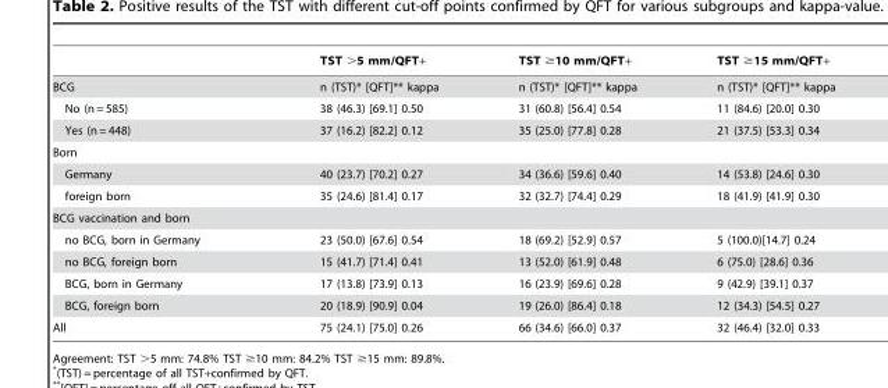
<table><thead><tr><td></td><td>TST &gt;5 mm/QFT+</td><td>TST ≥10 mm/QFT+</td><td>TST ≥15 mm/QFT+</td></tr></thead><tbody><tr><td>BCG</td><td>n (TST)* [QFT]** kappa</td><td>n (TST)* [QFT]** kappa</td><td>n (TST)* [QFT]** kappa</td></tr><tr><td>No (n = 585)</td><td>38 (46.3) [69.1] 0.50</td><td>31 (60.8) [56.4] 0.54</td><td>11 (84.6) [20.0] 0.30</td></tr><tr><td>Yes (n = 448)</td><td>37 (16.2) [82.2] 0.12</td><td>35 (25.0) [77.8] 0.28</td><td>21 (37.5) [53.3] 0.34</td></tr><tr><td colspan="4">Born</td></tr><tr><td>Germany</td><td>40 (23.7) [70.2] 0.27</td><td>34 (36.6) [59.6] 0.40</td><td>14 (53.8) [24.6] 0.30</td></tr><tr><td>foreign born</td><td>35 (24.6) [81.4] 0.17</td><td>32 (32.7) [74.4] 0.29</td><td>18 (41.9) [41.9] 0.30</td></tr><tr><td colspan="4">BCG vaccination and born</td></tr><tr><td>no BCG, born in Germany</td><td>23 (50.0) [67.6] 0.54</td><td>18 (69.2) [52.9] 0.57</td><td>5 (100.0)[14.7] 0.24</td></tr><tr><td>no BCG, foreign born</td><td>15 (41.7) [71.4] 0.41</td><td>13 (52.0) [61.9] 0.48</td><td>6 (75.0) [28.6] 0.36</td></tr><tr><td>BCG, born in Germany</td><td>17 (13.8) [73.9] 0.13</td><td>16 (23.9) [69.6] 0.28</td><td>9 (42.9) [39.1] 0.37</td></tr><tr><td>BCG, foreign born</td><td>20 (18.9) [90.9] 0.04</td><td>19 (26.0) [86.4] 0.18</td><td>12 (34.3) [54.5] 0.27</td></tr><tr><td>All</td><td>75 (24.1) [75.0] 0.26</td><td>66 (34.6) [66.0] 0.37</td><td>32 (46.4) [32.0] 0.33</td></tr></tbody></table>